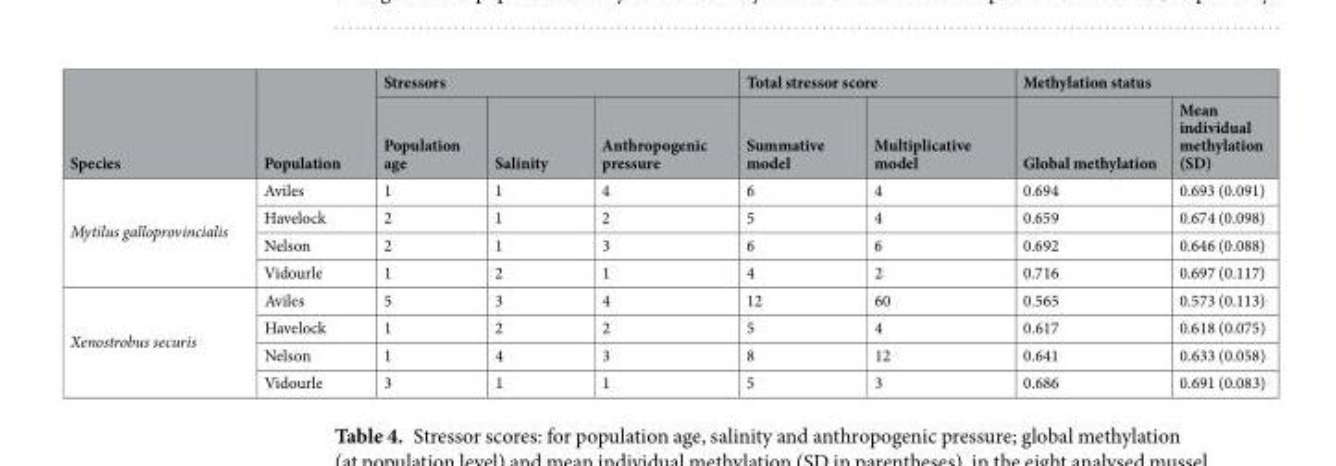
<table><thead><tr><td rowspan="2">Species</td><td rowspan="2">Population</td><td colspan="3">Stressors</td><td colspan="2">Total stressor score</td><td colspan="2">Methylation status</td></tr><tr><td>Population age</td><td>Salinity</td><td>Anthropogenic pressure</td><td>Summative model</td><td>Multiplicative model</td><td>Global methylation</td><td>Mean individual methylation (SD)</td></tr></thead><tbody><tr><td rowspan="4">Mytilus galloprovincialis</td><td>Aviles</td><td>1</td><td>1</td><td>4</td><td>6</td><td>4</td><td>0.694</td><td>0.693 (0.091)</td></tr><tr><td>Havelock</td><td>2</td><td>1</td><td>2</td><td>5</td><td>4</td><td>0.659</td><td>0.674 (0.098)</td></tr><tr><td>Nelson</td><td>2</td><td>1</td><td>3</td><td>6</td><td>6</td><td>0.692</td><td>0.646 (0.088)</td></tr><tr><td>Vidourle</td><td>1</td><td>2</td><td>1</td><td>4</td><td>2</td><td>0.716</td><td>0.697 (0.117)</td></tr><tr><td rowspan="4">Xenostrobus securis</td><td>Aviles</td><td>5</td><td>3</td><td>4</td><td>12</td><td>60</td><td>0.565</td><td>0.573 (0.113)</td></tr><tr><td>Havelock</td><td>1</td><td>2</td><td>2</td><td>5</td><td>4</td><td>0.617</td><td>0.618 (0.075)</td></tr><tr><td>Nelson</td><td>1</td><td>4</td><td>3</td><td>8</td><td>12</td><td>0.641</td><td>0.633 (0.058)</td></tr><tr><td>Vidourle</td><td>3</td><td>1</td><td>1</td><td>5</td><td>3</td><td>0.686</td><td>0.691 (0.083)</td></tr></tbody></table>